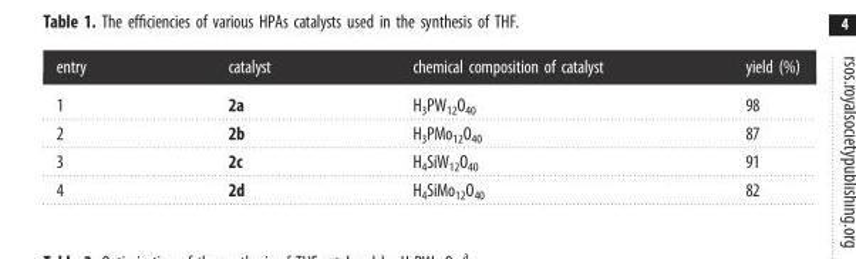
<table><thead><tr><td>entry</td><td>catalyst</td><td>chemical composition of catalyst</td><td>yield (%)</td></tr></thead><tbody><tr><td>1</td><td>2a</td><td>H<sub>3</sub>PW<sub>12</sub>O<sub>40</sub></td><td>98</td></tr><tr><td>2</td><td>2b</td><td>H<sub>3</sub>PMo<sub>12</sub>O<sub>40</sub></td><td>87</td></tr><tr><td>3</td><td>2c</td><td>H<sub>4</sub>SiW<sub>12</sub>O<sub>40</sub></td><td>91</td></tr><tr><td>4</td><td>2d</td><td>H<sub>4</sub>SiMo<sub>12</sub>O<sub>40</sub></td><td>82</td></tr></tbody></table>